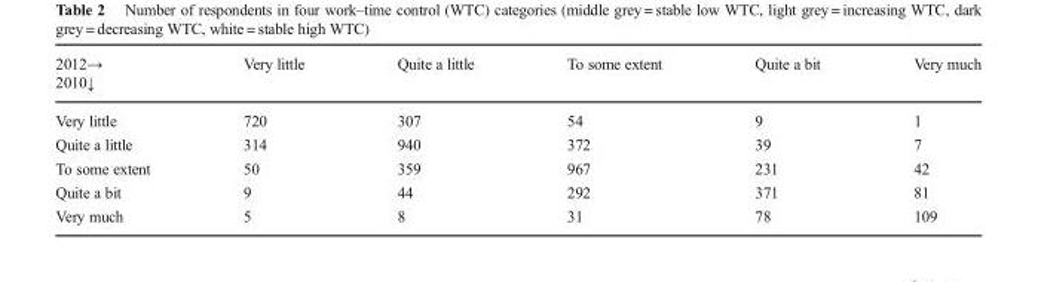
<table><thead><tr><td>2012→ 2010↓</td><td>Very little</td><td>Quite a little</td><td>To some extent</td><td>Quite a bit</td><td>Very much</td></tr></thead><tbody><tr><td>Very little</td><td>720</td><td>307</td><td>54</td><td>9</td><td>1</td></tr><tr><td>Quite a little</td><td>314</td><td>940</td><td>372</td><td>39</td><td>7</td></tr><tr><td>To some extent</td><td>50</td><td>359</td><td>967</td><td>231</td><td>42</td></tr><tr><td>Quite a bit</td><td>9</td><td>44</td><td>292</td><td>371</td><td>81</td></tr><tr><td>Very much</td><td>5</td><td>8</td><td>31</td><td>78</td><td>109</td></tr></tbody></table>